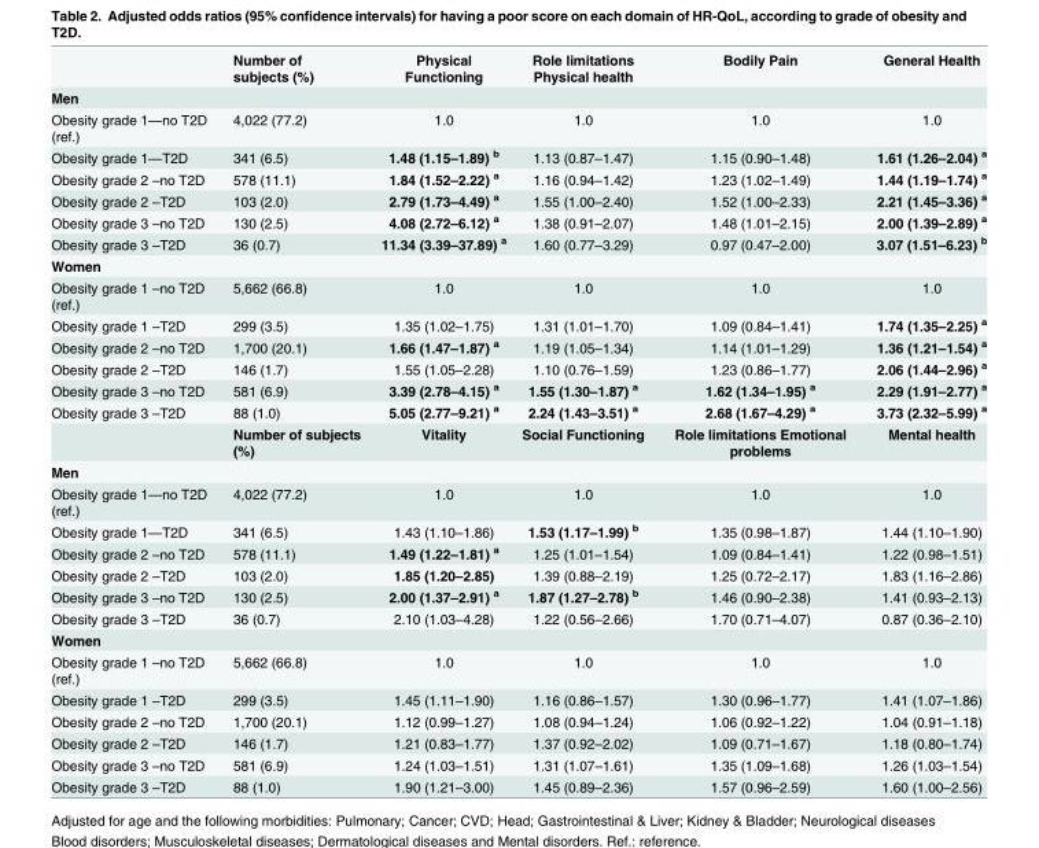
<table><thead><tr><td></td><td>Number of subjects (%)</td><td>Physical Functioning</td><td>Role limitations Physical health</td><td>Bodily Pain</td><td>General Health</td></tr></thead><tbody><tr><td colspan="6">Men</td></tr><tr><td>Obesity grade 1—no T2D (ref.)</td><td>4,022 (77.2)</td><td>1.0</td><td>1.0</td><td>1.0</td><td>1.0</td></tr><tr><td>Obesity grade 1—T2D</td><td>341 (6.5)</td><td>1.48 (1.15–1.89) <sup>b</sup></td><td>1.13 (0.87–1.47)</td><td>1.15 (0.90–1.48)</td><td>1.61 (1.26–2.04) <sup>a</sup></td></tr><tr><td>Obesity grade 2 –no T2D</td><td>578 (11.1)</td><td>1.84 (1.52–2.22) <sup>a</sup></td><td>1.16 (0.94–1.42)</td><td>1.23 (1.02–1.49)</td><td>1.44 (1.19–1.74) <sup>a</sup></td></tr><tr><td>Obesity grade 2 –T2D</td><td>103 (2.0)</td><td>2.79 (1.73–4.49) <sup>a</sup></td><td>1.55 (1.00–2.40)</td><td>1.52 (1.00–2.33)</td><td>2.21 (1.45–3.36) <sup>a</sup></td></tr><tr><td>Obesity grade 3 –no T2D</td><td>130 (2.5)</td><td>4.08 (2.72–6.12) <sup>a</sup></td><td>1.38 (0.91–2.07)</td><td>1.48 (1.01–2.15)</td><td>2.00 (1.39–2.89) <sup>a</sup></td></tr><tr><td>Obesity grade 3 –T2D</td><td>36 (0.7)</td><td>11.34 (3.39–37.89) <sup>a</sup></td><td>1.60 (0.77–3.29)</td><td>0.97 (0.47–2.00)</td><td>3.07 (1.51–6.23) <sup>b</sup></td></tr><tr><td colspan="6">Women</td></tr><tr><td>Obesity grade 1 –no T2D (ref.)</td><td>5,662 (66.8)</td><td>1.0</td><td>1.0</td><td>1.0</td><td>1.0</td></tr><tr><td>Obesity grade 1 –T2D</td><td>299 (3.5)</td><td>1.35 (1.02–1.75)</td><td>1.31 (1.01–1.70)</td><td>1.09 (0.84–1.41)</td><td>1.74 (1.35–2.25) <sup>a</sup></td></tr><tr><td>Obesity grade 2 –no T2D</td><td>1,700 (20.1)</td><td>1.66 (1.47–1.87) <sup>a</sup></td><td>1.19 (1.05–1.34)</td><td>1.14 (1.01–1.29)</td><td>1.36 (1.21–1.54) <sup>a</sup></td></tr><tr><td>Obesity grade 2 –T2D</td><td>146 (1.7)</td><td>1.55 (1.05–2.28)</td><td>1.10 (0.76–1.59)</td><td>1.23 (0.86–1.77)</td><td>2.06 (1.44–2.96) <sup>a</sup></td></tr><tr><td>Obesity grade 3 –no T2D</td><td>581 (6.9)</td><td>3.39 (2.78–4.15) <sup>a</sup></td><td>1.55 (1.30–1.87) <sup>a</sup></td><td>1.62 (1.34–1.95) <sup>a</sup></td><td>2.29 (1.91–2.77) <sup>a</sup></td></tr><tr><td rowspan="2">Obesity grade 3 –T2D</td><td>88 (1.0)</td><td>5.05 (2.77–9.21) <sup>a</sup></td><td>2.24 (1.43–3.51) <sup>a</sup></td><td>2.68 (1.67–4.29) <sup>a</sup></td><td>3.73 (2.32–5.99) <sup>a</sup></td></tr><tr><td>Number of subjects (%)</td><td>Vitality</td><td>Social Functioning</td><td>Role limitations Emotional problems</td><td>Mental health</td></tr><tr><td colspan="6">Men</td></tr><tr><td>Obesity grade 1—no T2D (ref.)</td><td>4,022 (77.2)</td><td>1.0</td><td>1.0</td><td>1.0</td><td>1.0</td></tr><tr><td>Obesity grade 1—T2D</td><td>341 (6.5)</td><td>1.43 (1.10–1.86)</td><td>1.53 (1.17–1.99) <sup>b</sup></td><td>1.35 (0.98–1.87)</td><td>1.44 (1.10–1.90)</td></tr><tr><td>Obesity grade 2 –no T2D</td><td>578 (11.1)</td><td>1.49 (1.22–1.81) <sup>a</sup></td><td>1.25 (1.01–1.54)</td><td>1.09 (0.84–1.41)</td><td>1.22 (0.98–1.51)</td></tr><tr><td>Obesity grade 2 –T2D</td><td>103 (2.0)</td><td>1.85 (1.20–2.85)</td><td>1.39 (0.88–2.19)</td><td>1.25 (0.72–2.17)</td><td>1.83 (1.16–2.86)</td></tr><tr><td>Obesity grade 3 –no T2D</td><td>130 (2.5)</td><td>2.00 (1.37–2.91) <sup>a</sup></td><td>1.87 (1.27–2.78) <sup>b</sup></td><td>1.46 (0.90–2.38)</td><td>1.41 (0.93–2.13)</td></tr><tr><td>Obesity grade 3 –T2D</td><td>36 (0.7)</td><td>2.10 (1.03–4.28)</td><td>1.22 (0.56–2.66)</td><td>1.70 (0.71–4.07)</td><td>0.87 (0.36–2.10)</td></tr><tr><td colspan="6">Women</td></tr><tr><td>Obesity grade 1 –no T2D (ref.)</td><td>5,662 (66.8)</td><td>1.0</td><td>1.0</td><td>1.0</td><td>1.0</td></tr><tr><td>Obesity grade 1 –T2D</td><td>299 (3.5)</td><td>1.45 (1.11–1.90)</td><td>1.16 (0.86–1.57)</td><td>1.30 (0.96–1.77)</td><td>1.41 (1.07–1.86)</td></tr><tr><td>Obesity grade 2 –no T2D</td><td>1,700 (20.1)</td><td>1.12 (0.99–1.27)</td><td>1.08 (0.94–1.24)</td><td>1.06 (0.92–1.22)</td><td>1.04 (0.91–1.18)</td></tr><tr><td>Obesity grade 2 –T2D</td><td>146 (1.7)</td><td>1.21 (0.83–1.77)</td><td>1.37 (0.92–2.02)</td><td>1.09 (0.71–1.67)</td><td>1.18 (0.80–1.74)</td></tr><tr><td>Obesity grade 3 –no T2D</td><td>581 (6.9)</td><td>1.24 (1.03–1.51)</td><td>1.31 (1.07–1.61)</td><td>1.35 (1.09–1.68)</td><td>1.26 (1.03–1.54)</td></tr><tr><td>Obesity grade 3 –T2D</td><td>88 (1.0)</td><td>1.90 (1.21–3.00)</td><td>1.45 (0.89–2.36)</td><td>1.57 (0.96–2.59)</td><td>1.60 (1.00–2.56)</td></tr></tbody></table>